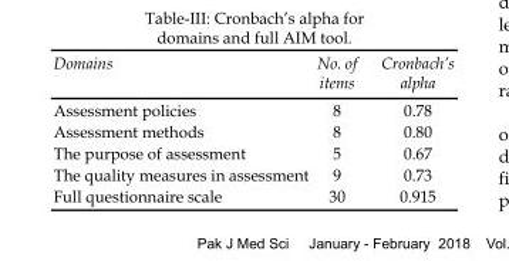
<table><thead><tr><td>Domains</td><td>No. of items</td><td>Cronbach’s alpha</td></tr></thead><tbody><tr><td>Assessment policies</td><td>8</td><td>0.78</td></tr><tr><td>Assessment methods</td><td>8</td><td>0.80</td></tr><tr><td>The purpose of assessment</td><td>5</td><td>0.67</td></tr><tr><td>The quality measures in assessment</td><td>9</td><td>0.73</td></tr><tr><td>Full questionnaire scale</td><td>30</td><td>0.915</td></tr></tbody></table>